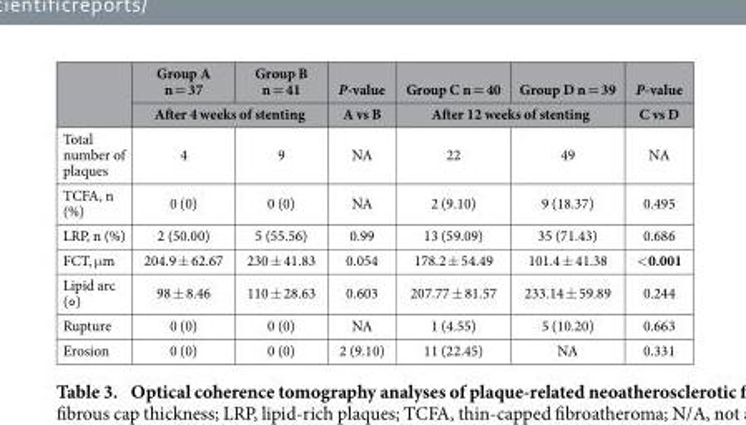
<table><thead><tr><td rowspan="2"></td><td>Group A n = 37</td><td>Group B n = 41</td><td rowspan="2">P-value A vs B</td><td>Group C n = 40</td><td>Group D n = 39</td><td rowspan="2">P-value C vs D</td></tr><tr><td colspan="2">After 4 weeks of stenting</td><td colspan="2">After 12 weeks of stenting</td></tr></thead><tbody><tr><td>Total number of plaques</td><td>4</td><td>9</td><td>NA</td><td>22</td><td>49</td><td>NA</td></tr><tr><td>TCFA, n (%)</td><td>0 (0)</td><td>0 (0)</td><td>NA</td><td>2 (9.10)</td><td>9 (18.37)</td><td>0.495</td></tr><tr><td>LRP, n (%)</td><td>2 (50.00)</td><td>5 (55.56)</td><td>0.99</td><td>13 (59.09)</td><td>35 (71.43)</td><td>0.686</td></tr><tr><td>FCT, μ m</td><td>204.9 ± 62.67</td><td>230 ± 41.83</td><td>0.054</td><td>178.2 ± 54.49</td><td>101.4 ± 41.38</td><td>&lt; 0.001</td></tr><tr><td>Lipid arc (◦ )</td><td>98 ± 8.46</td><td>110 ± 28.63</td><td>0.603</td><td>207.77 ± 81.57</td><td>233.14 ± 59.89</td><td>0.244</td></tr><tr><td>Rupture</td><td>0 (0)</td><td>0 (0)</td><td>NA</td><td>1 (4.55)</td><td>5 (10.20)</td><td>0.663</td></tr><tr><td>Erosion</td><td>0 (0)</td><td>0 (0)</td><td>2 (9.10)</td><td>11 (22.45)</td><td>NA</td><td>0.331</td></tr></tbody></table>